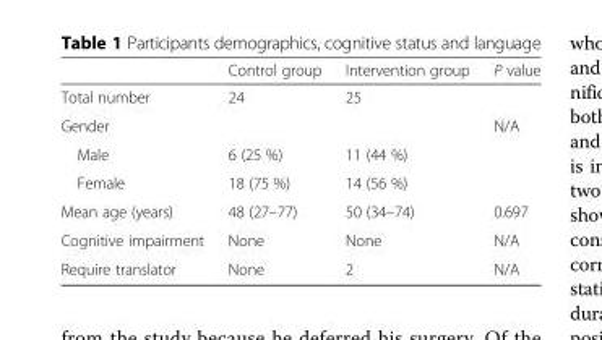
<table><thead><tr><td></td><td>Control group</td><td>Intervention group</td><td>P value</td></tr></thead><tbody><tr><td>Total number</td><td>24</td><td>25</td><td></td></tr><tr><td>Gender</td><td></td><td></td><td>N/A</td></tr><tr><td>Male</td><td>6 (25 %)</td><td>11 (44 %)</td><td></td></tr><tr><td>Female</td><td>18 (75 %)</td><td>14 (56 %)</td><td></td></tr><tr><td>Mean age (years)</td><td>48 (27–77)</td><td>50 (34–74)</td><td>0.697</td></tr><tr><td>Cognitive impairment</td><td>None</td><td>None</td><td>N/A</td></tr><tr><td>Require translator</td><td>None</td><td>2</td><td>N/A</td></tr></tbody></table>